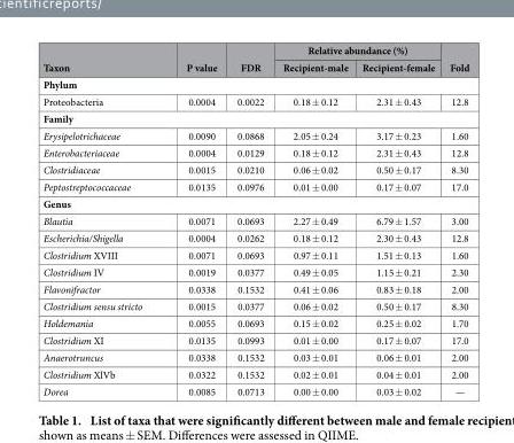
<table><thead><tr><td rowspan="2">Taxon</td><td rowspan="2">P value</td><td rowspan="2">FDR</td><td colspan="2">Relative abundance (%)</td><td rowspan="2">Fold</td></tr><tr><td>Recipient-male</td><td>Recipient-female</td></tr></thead><tbody><tr><td colspan="6">Phylum</td></tr><tr><td>Proteobacteria</td><td>0.0004</td><td>0.0022</td><td>0.18 ± 0.12</td><td>2.31 ± 0.43</td><td>12.8</td></tr><tr><td colspan="6">Family</td></tr><tr><td>Erysipelotrichaceae</td><td>0.0090</td><td>0.0868</td><td>2.05 ± 0.24</td><td>3.17 ± 0.23</td><td>1.60</td></tr><tr><td>Enterobacteriaceae</td><td>0.0004</td><td>0.0129</td><td>0.18 ± 0.12</td><td>2.31 ± 0.43</td><td>12.8</td></tr><tr><td>Clostridiaceae</td><td>0.0015</td><td>0.0210</td><td>0.06 ± 0.02</td><td>0.50 ± 0.17</td><td>8.30</td></tr><tr><td>Peptostreptococcaceae</td><td>0.0135</td><td>0.0976</td><td>0.01 ± 0.00</td><td>0.17 ± 0.07</td><td>17.0</td></tr><tr><td colspan="6">Genus</td></tr><tr><td>Blautia</td><td>0.0071</td><td>0.0693</td><td>2.27 ± 0.49</td><td>6.79 ± 1.57</td><td>3.00</td></tr><tr><td>Escherichia/Shigella</td><td>0.0004</td><td>0.0262</td><td>0.18 ± 0.12</td><td>2.30 ± 0.43</td><td>12.8</td></tr><tr><td>Clostridium XVIII</td><td>0.0071</td><td>0.0693</td><td>0.97 ± 0.11</td><td>1.51 ± 0.13</td><td>1.60</td></tr><tr><td>Clostridium IV</td><td>0.0019</td><td>0.0377</td><td>0.49 ± 0.05</td><td>1.15 ± 0.21</td><td>2.30</td></tr><tr><td>Flavonifractor</td><td>0.0338</td><td>0.1532</td><td>0.41 ± 0.06</td><td>0.83 ± 0.18</td><td>2.00</td></tr><tr><td>Clostridium sensu stricto</td><td>0.0015</td><td>0.0377</td><td>0.06 ± 0.02</td><td>0.50 ± 0.17</td><td>8.30</td></tr><tr><td>Holdemania</td><td>0.0055</td><td>0.0693</td><td>0.15 ± 0.02</td><td>0.25 ± 0.02</td><td>1.70</td></tr><tr><td>Clostridium XI</td><td>0.0135</td><td>0.0993</td><td>0.01 ± 0.00</td><td>0.17 ± 0.07</td><td>17.0</td></tr><tr><td>Anaerotruncus</td><td>0.0338</td><td>0.1532</td><td>0.03 ± 0.01</td><td>0.06 ± 0.01</td><td>2.00</td></tr><tr><td>Clostridium XlVb</td><td>0.0322</td><td>0.1532</td><td>0.02 ± 0.01</td><td>0.04 ± 0.01</td><td>2.00</td></tr><tr><td>Dorea</td><td>0.0085</td><td>0.0713</td><td>0.00 ± 0.00</td><td>0.03 ± 0.02</td><td>—</td></tr></tbody></table>